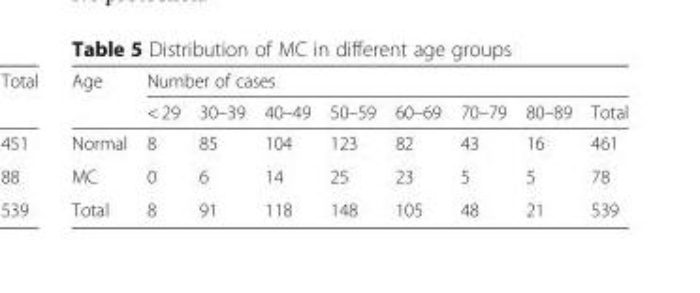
<table><thead><tr><td rowspan="2">Age</td><td colspan="8">Number of cases</td></tr><tr><td>&lt; 29</td><td>30–39</td><td>40–49</td><td>50–59</td><td>60–69</td><td>70–79</td><td>80–89</td><td>Total</td></tr></thead><tbody><tr><td>Normal</td><td>8</td><td>85</td><td>104</td><td>123</td><td>82</td><td>43</td><td>16</td><td>461</td></tr><tr><td>MC</td><td>0</td><td>6</td><td>14</td><td>25</td><td>23</td><td>5</td><td>5</td><td>78</td></tr><tr><td>Total</td><td>8</td><td>91</td><td>118</td><td>148</td><td>105</td><td>48</td><td>21</td><td>539</td></tr></tbody></table>